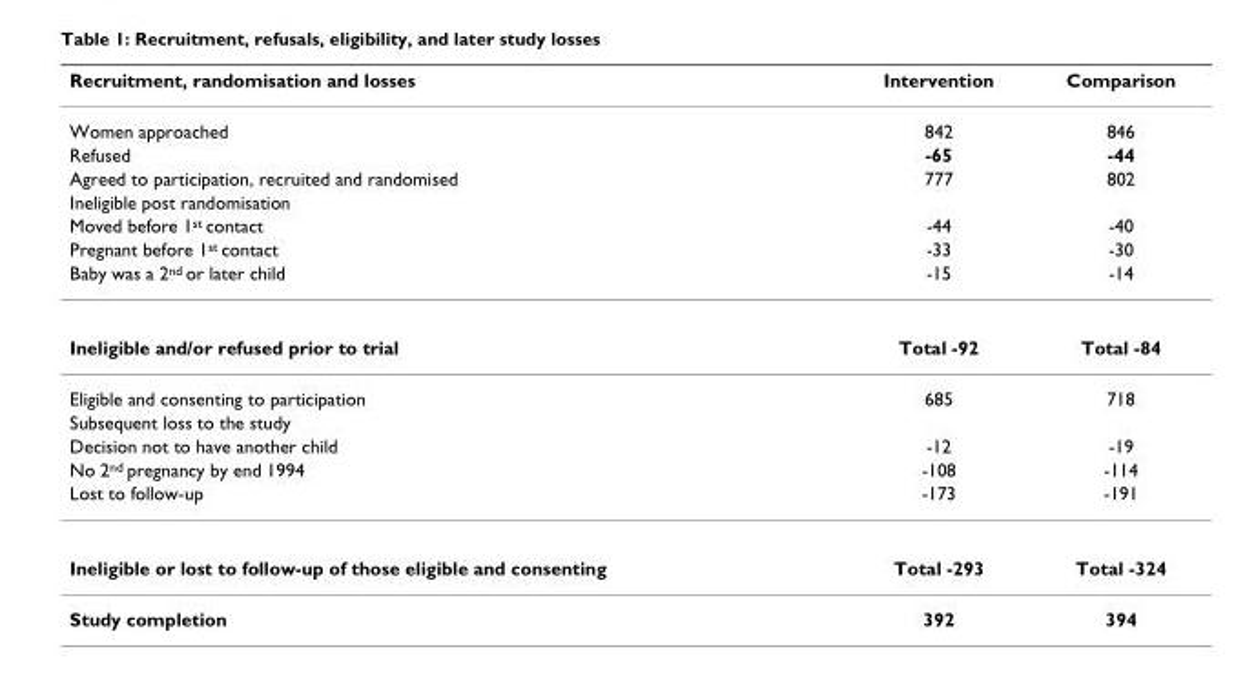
<table><thead><tr><td>Recruitment, randomisation and losses</td><td>Intervention</td><td>Comparison</td></tr></thead><tbody><tr><td>Women approached</td><td>842</td><td>846</td></tr><tr><td>Refused</td><td>-65</td><td>-44</td></tr><tr><td>Agreed to participation, recruited and randomised</td><td>777</td><td>802</td></tr><tr><td colspan="3">Ineligible post randomisation</td></tr><tr><td>Moved before 1st contact</td><td>-44</td><td>-40</td></tr><tr><td>Pregnant before 1st contact</td><td>-33</td><td>-30</td></tr><tr><td>Baby was a 2nd or later child</td><td>-15</td><td>-14</td></tr><tr><td>Ineligible and/or refused prior to trial</td><td>Total -92</td><td>Total -84</td></tr><tr><td>Eligible and consenting to participation</td><td>685</td><td>718</td></tr><tr><td colspan="3">Subsequent loss to the study</td></tr><tr><td>Decision not to have another child</td><td>-12</td><td>-19</td></tr><tr><td>No 2nd pregnancy by end 1994</td><td>-108</td><td>-114</td></tr><tr><td>Lost to follow-up</td><td>-173</td><td>-191</td></tr><tr><td>Ineligible or lost to follow-up of those eligible and consenting</td><td>Total -293</td><td>Total -324</td></tr><tr><td>Study completion</td><td>392</td><td>394</td></tr></tbody></table>